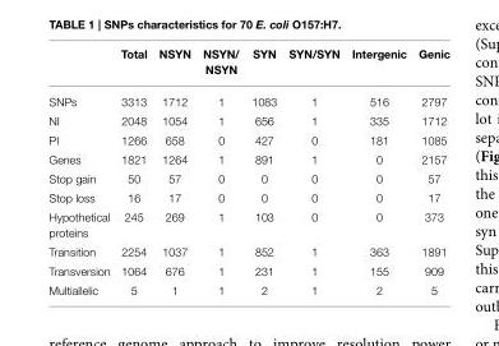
<table><thead><tr><td></td><td>Total</td><td>NSYN</td><td>NSYN/ NSYN</td><td>SYN</td><td>SYN/SYN</td><td>Intergenic</td><td>Genic</td></tr></thead><tbody><tr><td>SNPs</td><td>3313</td><td>1712</td><td>1</td><td>1083</td><td>1</td><td>516</td><td>2797</td></tr><tr><td>NI</td><td>2048</td><td>1054</td><td>1</td><td>656</td><td>1</td><td>335</td><td>1712</td></tr><tr><td>PI</td><td>1266</td><td>658</td><td>0</td><td>427</td><td>0</td><td>181</td><td>1085</td></tr><tr><td>Genes</td><td>1821</td><td>1264</td><td>1</td><td>891</td><td>1</td><td>0</td><td>2157</td></tr><tr><td>Stop gain</td><td>50</td><td>57</td><td>0</td><td>0</td><td>0</td><td>0</td><td>57</td></tr><tr><td>Stop loss</td><td>16</td><td>17</td><td>0</td><td>0</td><td>0</td><td>0</td><td>17</td></tr><tr><td>Hypothetical proteins</td><td>245</td><td>269</td><td>1</td><td>103</td><td>0</td><td>0</td><td>373</td></tr><tr><td>Transition</td><td>2254</td><td>1037</td><td>1</td><td>852</td><td>1</td><td>363</td><td>1891</td></tr><tr><td>Transversion</td><td>1064</td><td>676</td><td>1</td><td>231</td><td>1</td><td>155</td><td>909</td></tr><tr><td>Multiallelic</td><td>5</td><td>1</td><td>1</td><td>2</td><td>1</td><td>2</td><td>5</td></tr></tbody></table>